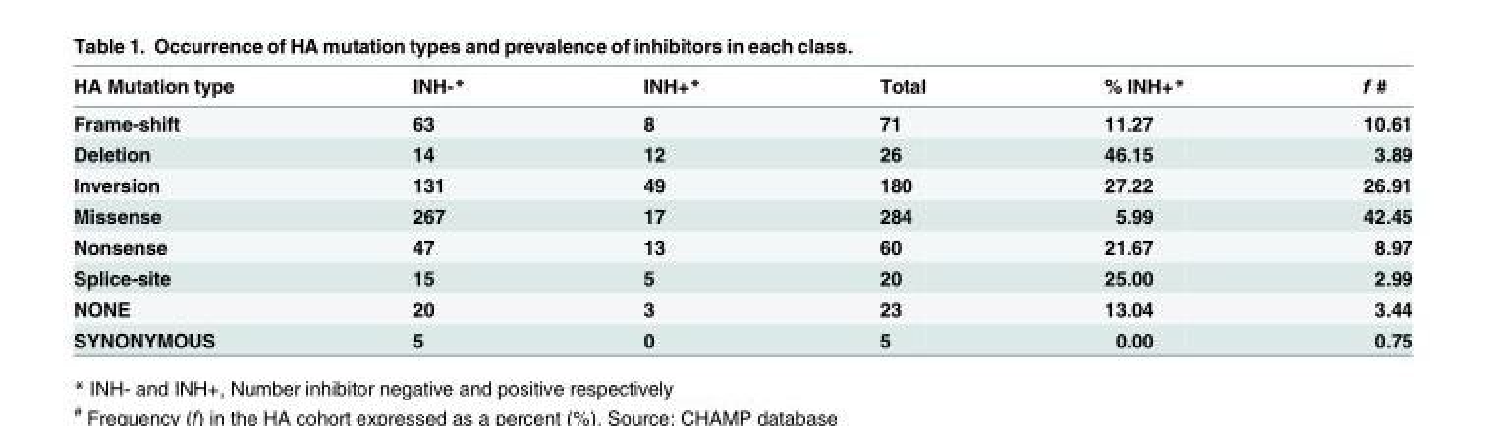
<table><thead><tr><td>HA Mutation type</td><td>INH-*</td><td>INH+*</td><td>Total</td><td>% INH+*</td><td>f #</td></tr></thead><tbody><tr><td>Frame-shift</td><td>63</td><td>8</td><td>71</td><td>11.27</td><td>10.61</td></tr><tr><td>Deletion</td><td>14</td><td>12</td><td>26</td><td>46.15</td><td>3.89</td></tr><tr><td>Inversion</td><td>131</td><td>49</td><td>180</td><td>27.22</td><td>26.91</td></tr><tr><td>Missense</td><td>267</td><td>17</td><td>284</td><td>5.99</td><td>42.45</td></tr><tr><td>Nonsense</td><td>47</td><td>13</td><td>60</td><td>21.67</td><td>8.97</td></tr><tr><td>Splice-site</td><td>15</td><td>5</td><td>20</td><td>25.00</td><td>2.99</td></tr><tr><td>NONE</td><td>20</td><td>3</td><td>23</td><td>13.04</td><td>3.44</td></tr><tr><td>SYNONYMOUS</td><td>5</td><td>0</td><td>5</td><td>0.00</td><td>0.75</td></tr></tbody></table>